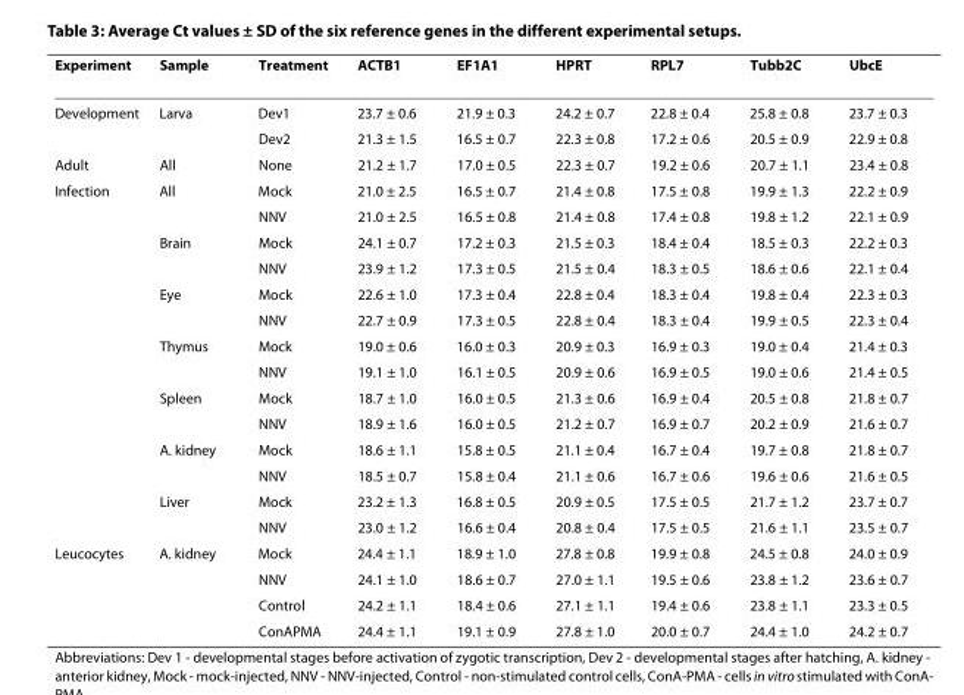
<table><thead><tr><td>Experiment</td><td>Sample</td><td>Treatment</td><td>ACTB1</td><td>EF1A1</td><td>HPRT</td><td>RPL7</td><td>Tubb2C</td><td>UbcE</td></tr></thead><tbody><tr><td rowspan="2">Development</td><td>Larva</td><td>Dev1</td><td>23.7 ± 0.6</td><td>21.9 ± 0.3</td><td>24.2 ± 0.7</td><td>22.8 ± 0.4</td><td>25.8 ± 0.8</td><td>23.7 ± 0.3</td></tr><tr><td></td><td>Dev2</td><td>21.3 ± 1.5</td><td>16.5 ± 0.7</td><td>22.3 ± 0.8</td><td>17.2 ± 0.6</td><td>20.5 ± 0.9</td><td>22.9 ± 0.8</td></tr><tr><td>Adult</td><td>All</td><td>None</td><td>21.2 ± 1.7</td><td>17.0 ± 0.5</td><td>22.3 ± 0.7</td><td>19.2 ± 0.6</td><td>20.7 ± 1.1</td><td>23.4 ± 0.8</td></tr><tr><td rowspan="14">Infection</td><td>All</td><td>Mock</td><td>21.0 ± 2.5</td><td>16.5 ± 0.7</td><td>21.4 ± 0.8</td><td>17.5 ± 0.8</td><td>19.9 ± 1.3</td><td>22.2 ± 0.9</td></tr><tr><td></td><td>NNV</td><td>21.0 ± 2.5</td><td>16.5 ± 0.8</td><td>21.4 ± 0.8</td><td>17.4 ± 0.8</td><td>19.8 ± 1.2</td><td>22.1 ± 0.9</td></tr><tr><td>Brain</td><td>Mock</td><td>24.1 ± 0.7</td><td>17.2 ± 0.3</td><td>21.5 ± 0.3</td><td>18.4 ± 0.4</td><td>18.5 ± 0.3</td><td>22.2 ± 0.3</td></tr><tr><td></td><td>NNV</td><td>23.9 ± 1.2</td><td>17.3 ± 0.5</td><td>21.5 ± 0.4</td><td>18.3 ± 0.5</td><td>18.6 ± 0.6</td><td>22.1 ± 0.4</td></tr><tr><td>Eye</td><td>Mock</td><td>22.6 ± 1.0</td><td>17.3 ± 0.4</td><td>22.8 ± 0.4</td><td>18.3 ± 0.4</td><td>19.8 ± 0.4</td><td>22.3 ± 0.3</td></tr><tr><td></td><td>NNV</td><td>22.7 ± 0.9</td><td>17.3 ± 0.5</td><td>22.8 ± 0.4</td><td>18.3 ± 0.4</td><td>19.9 ± 0.5</td><td>22.3 ± 0.4</td></tr><tr><td>Thymus</td><td>Mock</td><td>19.0 ± 0.6</td><td>16.0 ± 0.3</td><td>20.9 ± 0.3</td><td>16.9 ± 0.3</td><td>19.0 ± 0.4</td><td>21.4 ± 0.3</td></tr><tr><td></td><td>NNV</td><td>19.1 ± 1.0</td><td>16.1 ± 0.5</td><td>20.9 ± 0.6</td><td>16.9 ± 0.5</td><td>19.0 ± 0.6</td><td>21.4 ± 0.5</td></tr><tr><td>Spleen</td><td>Mock</td><td>18.7 ± 1.0</td><td>16.0 ± 0.5</td><td>21.3 ± 0.6</td><td>16.9 ± 0.4</td><td>20.5 ± 0.8</td><td>21.8 ± 0.7</td></tr><tr><td></td><td>NNV</td><td>18.9 ± 1.6</td><td>16.0 ± 0.5</td><td>21.2 ± 0.7</td><td>16.9 ± 0.7</td><td>20.2 ± 0.9</td><td>21.6 ± 0.7</td></tr><tr><td>A. kidney</td><td>Mock</td><td>18.6 ± 1.1</td><td>15.8 ± 0.5</td><td>21.1 ± 0.4</td><td>16.7 ± 0.4</td><td>19.7 ± 0.8</td><td>21.8 ± 0.7</td></tr><tr><td></td><td>NNV</td><td>18.5 ± 0.7</td><td>15.8 ± 0.4</td><td>21.1 ± 0.6</td><td>16.7 ± 0.6</td><td>19.6 ± 0.6</td><td>21.6 ± 0.5</td></tr><tr><td>Liver</td><td>Mock</td><td>23.2 ± 1.3</td><td>16.8 ± 0.5</td><td>20.9 ± 0.5</td><td>17.5 ± 0.5</td><td>21.7 ± 1.2</td><td>23.7 ± 0.7</td></tr><tr><td></td><td>NNV</td><td>23.0 ± 1.2</td><td>16.6 ± 0.4</td><td>20.8 ± 0.4</td><td>17.5 ± 0.5</td><td>21.6 ± 1.1</td><td>23.5 ± 0.7</td></tr><tr><td rowspan="4">Leucocytes</td><td>A. kidney</td><td>Mock</td><td>24.4 ± 1.1</td><td>18.9 ± 1.0</td><td>27.8 ± 0.8</td><td>19.9 ± 0.8</td><td>24.5 ± 0.8</td><td>24.0 ± 0.9</td></tr><tr><td></td><td>NNV</td><td>24.1 ± 1.0</td><td>18.6 ± 0.7</td><td>27.0 ± 1.1</td><td>19.5 ± 0.6</td><td>23.8 ± 1.2</td><td>23.6 ± 0.7</td></tr><tr><td></td><td>Control</td><td>24.2 ± 1.1</td><td>18.4 ± 0.6</td><td>27.1 ± 1.1</td><td>19.4 ± 0.6</td><td>23.8 ± 1.1</td><td>23.3 ± 0.5</td></tr><tr><td></td><td>ConAPMA</td><td>24.4 ± 1.1</td><td>19.1 ± 0.9</td><td>27.8 ± 1.0</td><td>20.0 ± 0.7</td><td>24.4 ± 1.0</td><td>24.2 ± 0.7</td></tr></tbody></table>